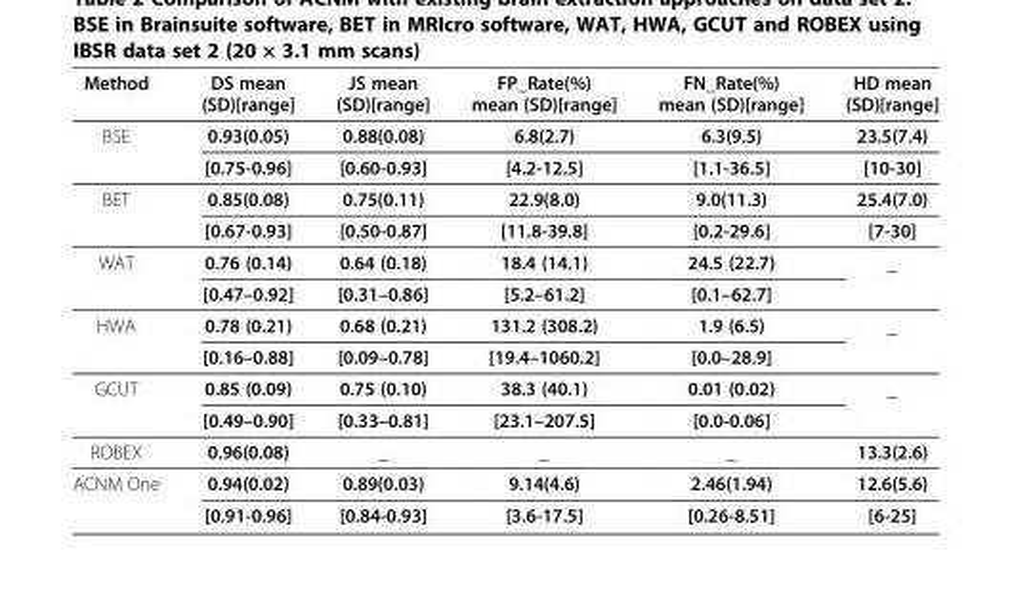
<table><thead><tr><td>Method</td><td>DS mean (SD)[range]</td><td>JS mean (SD)[range]</td><td>FP_Rate(%) mean (SD)[range]</td><td>FN_Rate(%) mean (SD)[range]</td><td>HD mean (SD)[range]</td></tr></thead><tbody><tr><td rowspan="2">BSE</td><td>0.93(0.05)</td><td>0.88(0.08)</td><td>6.8(2.7)</td><td>6.3(9.5)</td><td>23.5(7.4)</td></tr><tr><td>[0.75-0.96]</td><td>[0.60-0.93]</td><td>[4.2-12.5]</td><td>[1.1-36.5]</td><td>[10-30]</td></tr><tr><td rowspan="2">BET</td><td>0.85(0.08)</td><td>0.75(0.11)</td><td>22.9(8.0)</td><td>9.0(11.3)</td><td>25.4(7.0)</td></tr><tr><td>[0.67-0.93]</td><td>[0.50-0.87]</td><td>[11.8-39.8]</td><td>[0.2-29.6]</td><td>[7-30]</td></tr><tr><td rowspan="2">WAT</td><td>0.76 (0.14)</td><td>0.64 (0.18)</td><td>18.4 (14.1)</td><td>24.5 (22.7)</td><td rowspan="2">_</td></tr><tr><td>[0.47–0.92]</td><td>[0.31–0.86]</td><td>[5.2–61.2]</td><td>[0.1–62.7]</td></tr><tr><td rowspan="2">HWA</td><td>0.78 (0.21)</td><td>0.68 (0.21)</td><td>131.2 (308.2)</td><td>1.9 (6.5)</td><td rowspan="2">_</td></tr><tr><td>[0.16–0.88]</td><td>[0.09–0.78]</td><td>[19.4–1060.2]</td><td>[0.0–28.9]</td></tr><tr><td rowspan="2">GCUT</td><td>0.85 (0.09)</td><td>0.75 (0.10)</td><td>38.3 (40.1)</td><td>0.01 (0.02)</td><td rowspan="2">_</td></tr><tr><td>[0.49–0.90]</td><td>[0.33–0.81]</td><td>[23.1–207.5]</td><td>[0.0-0.06]</td></tr><tr><td>ROBEX</td><td>0.96(0.08)</td><td>_</td><td>_</td><td>_</td><td>13.3(2.6)</td></tr><tr><td rowspan="2">ACNM One</td><td>0.94(0.02)</td><td>0.89(0.03)</td><td>9.14(4.6)</td><td>2.46(1.94)</td><td>12.6(5.6)</td></tr><tr><td>[0.91-0.96]</td><td>[0.84-0.93]</td><td>[3.6-17.5]</td><td>[0.26-8.51]</td><td>[6-25]</td></tr></tbody></table>